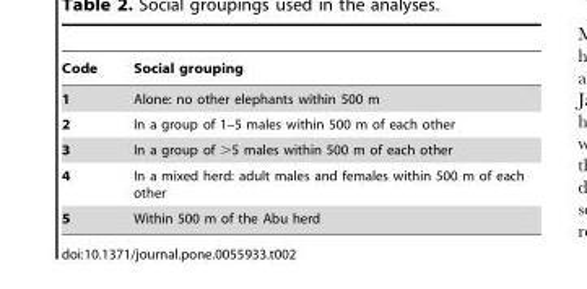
<table><thead><tr><td>Code</td><td>Social grouping</td></tr></thead><tbody><tr><td>1</td><td>Alone: no other elephants within 500 m</td></tr><tr><td>2</td><td>In a group of 1–5 males within 500 m of each other</td></tr><tr><td>3</td><td>In a group of &gt;5 males within 500 m of each other</td></tr><tr><td>4</td><td>In a mixed herd: adult males and females within 500 m of each other</td></tr><tr><td>5</td><td>Within 500 m of the Abu herd</td></tr></tbody></table>